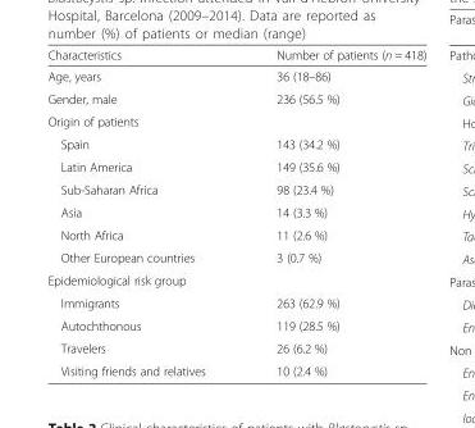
<table><thead><tr><td>Characteristics</td><td>Number of patients (n = 418)</td></tr></thead><tbody><tr><td>Age, years</td><td>36 (18–86)</td></tr><tr><td>Gender, male</td><td>236 (56.5 %)</td></tr><tr><td colspan="2">Origin of patients</td></tr><tr><td>Spain</td><td>143 (34.2 %)</td></tr><tr><td>Latin America</td><td>149 (35.6 %)</td></tr><tr><td>Sub-Saharan Africa</td><td>98 (23.4 %)</td></tr><tr><td>Asia</td><td>14 (3.3 %)</td></tr><tr><td>North Africa</td><td>11 (2.6 %)</td></tr><tr><td>Other European countries</td><td>3 (0.7 %)</td></tr><tr><td colspan="2">Epidemiological risk group</td></tr><tr><td>Immigrants</td><td>263 (62.9 %)</td></tr><tr><td>Autochthonous</td><td>119 (28.5 %)</td></tr><tr><td>Travelers</td><td>26 (6.2 %)</td></tr><tr><td>Visiting friends and relatives</td><td>10 (2.4 %)</td></tr></tbody></table>